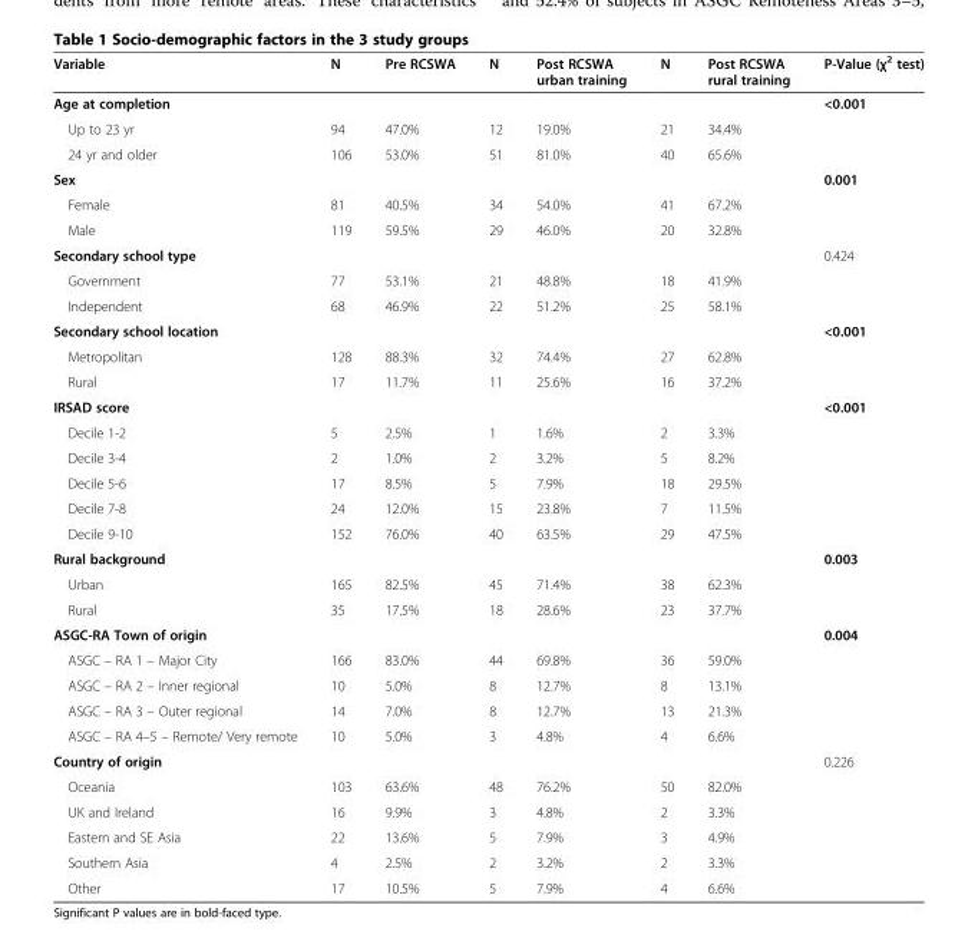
<table><thead><tr><td>Variable</td><td>N</td><td>Pre RCSWA</td><td>N</td><td>Post RCSWA urban training</td><td>N</td><td>Post RCSWA rural training</td><td>P-Value (χ<sup>2</sup> test)</td></tr></thead><tbody><tr><td>Age at completion</td><td></td><td></td><td></td><td></td><td></td><td></td><td>&lt;0.001</td></tr><tr><td>Up to 23 yr</td><td>94</td><td>47.0%</td><td>12</td><td>19.0%</td><td>21</td><td>34.4%</td><td></td></tr><tr><td>24 yr and older</td><td>106</td><td>53.0%</td><td>51</td><td>81.0%</td><td>40</td><td>65.6%</td><td></td></tr><tr><td>Sex</td><td></td><td></td><td></td><td></td><td></td><td></td><td>0.001</td></tr><tr><td>Female</td><td>81</td><td>40.5%</td><td>34</td><td>54.0%</td><td>41</td><td>67.2%</td><td></td></tr><tr><td>Male</td><td>119</td><td>59.5%</td><td>29</td><td>46.0%</td><td>20</td><td>32.8%</td><td></td></tr><tr><td>Secondary school type</td><td></td><td></td><td></td><td></td><td></td><td></td><td>0.424</td></tr><tr><td>Government</td><td>77</td><td>53.1%</td><td>21</td><td>48.8%</td><td>18</td><td>41.9%</td><td></td></tr><tr><td>Independent</td><td>68</td><td>46.9%</td><td>22</td><td>51.2%</td><td>25</td><td>58.1%</td><td></td></tr><tr><td>Secondary school location</td><td></td><td></td><td></td><td></td><td></td><td></td><td>&lt;0.001</td></tr><tr><td>Metropolitan</td><td>128</td><td>88.3%</td><td>32</td><td>74.4%</td><td>27</td><td>62.8%</td><td></td></tr><tr><td>Rural</td><td>17</td><td>11.7%</td><td>11</td><td>25.6%</td><td>16</td><td>37.2%</td><td></td></tr><tr><td>IRSAD score</td><td></td><td></td><td></td><td></td><td></td><td></td><td>&lt;0.001</td></tr><tr><td>Decile 1-2</td><td>5</td><td>2.5%</td><td>1</td><td>1.6%</td><td>2</td><td>3.3%</td><td></td></tr><tr><td>Decile 3-4</td><td>2</td><td>1.0%</td><td>2</td><td>3.2%</td><td>5</td><td>8.2%</td><td></td></tr><tr><td>Decile 5-6</td><td>17</td><td>8.5%</td><td>5</td><td>7.9%</td><td>18</td><td>29.5%</td><td></td></tr><tr><td>Decile 7-8</td><td>24</td><td>12.0%</td><td>15</td><td>23.8%</td><td>7</td><td>11.5%</td><td></td></tr><tr><td>Decile 9-10</td><td>152</td><td>76.0%</td><td>40</td><td>63.5%</td><td>29</td><td>47.5%</td><td></td></tr><tr><td>Rural background</td><td></td><td></td><td></td><td></td><td></td><td></td><td>0.003</td></tr><tr><td>Urban</td><td>165</td><td>82.5%</td><td>45</td><td>71.4%</td><td>38</td><td>62.3%</td><td></td></tr><tr><td>Rural</td><td>35</td><td>17.5%</td><td>18</td><td>28.6%</td><td>23</td><td>37.7%</td><td></td></tr><tr><td>ASGC-RA Town of origin</td><td></td><td></td><td></td><td></td><td></td><td></td><td>0.004</td></tr><tr><td>ASGC – RA 1 – Major City</td><td>166</td><td>83.0%</td><td>44</td><td>69.8%</td><td>36</td><td>59.0%</td><td></td></tr><tr><td>ASGC – RA 2 – Inner regional</td><td>10</td><td>5.0%</td><td>8</td><td>12.7%</td><td>8</td><td>13.1%</td><td></td></tr><tr><td>ASGC – RA 3 – Outer regional</td><td>14</td><td>7.0%</td><td>8</td><td>12.7%</td><td>13</td><td>21.3%</td><td></td></tr><tr><td>ASGC – RA 4–5 – Remote/ Very remote</td><td>10</td><td>5.0%</td><td>3</td><td>4.8%</td><td>4</td><td>6.6%</td><td></td></tr><tr><td>Country of origin</td><td></td><td></td><td></td><td></td><td></td><td></td><td>0.226</td></tr><tr><td>Oceania</td><td>103</td><td>63.6%</td><td>48</td><td>76.2%</td><td>50</td><td>82.0%</td><td></td></tr><tr><td>UK and Ireland</td><td>16</td><td>9.9%</td><td>3</td><td>4.8%</td><td>2</td><td>3.3%</td><td></td></tr><tr><td>Eastern and SE Asia</td><td>22</td><td>13.6%</td><td>5</td><td>7.9%</td><td>3</td><td>4.9%</td><td></td></tr><tr><td>Southern Asia</td><td>4</td><td>2.5%</td><td>2</td><td>3.2%</td><td>2</td><td>3.3%</td><td></td></tr><tr><td>Other</td><td>17</td><td>10.5%</td><td>5</td><td>7.9%</td><td>4</td><td>6.6%</td><td></td></tr></tbody></table>